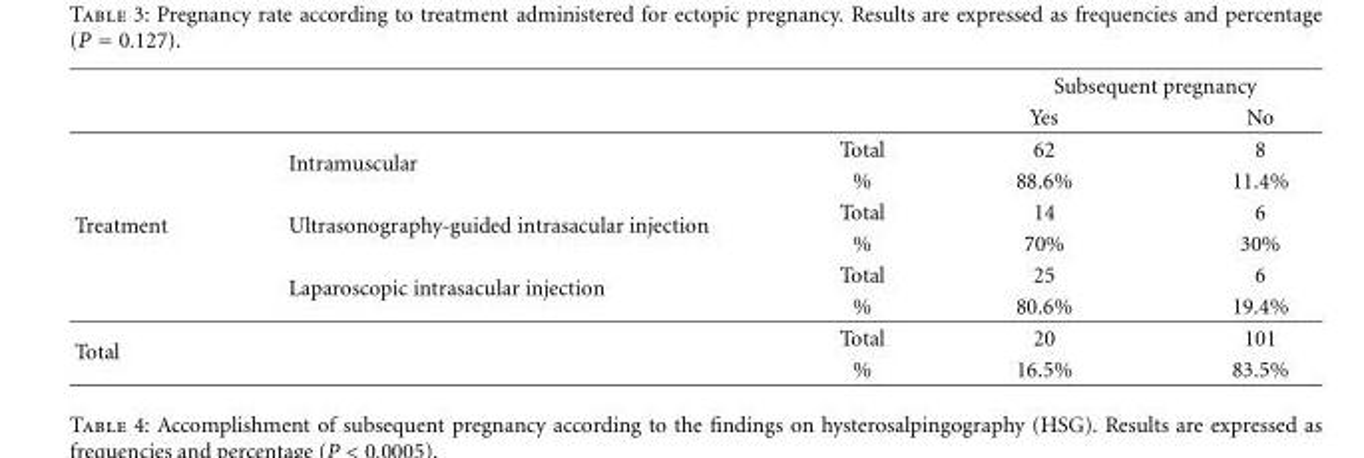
<table><thead><tr><td rowspan="2"></td><td rowspan="2"></td><td rowspan="2"></td><td colspan="2">Subsequent pregnancy</td></tr><tr><td>Yes</td><td>No</td></tr></thead><tbody><tr><td rowspan="6">Treatment</td><td rowspan="2">Intramuscular</td><td>Total</td><td>62</td><td>8</td></tr><tr><td>%</td><td>88.6%</td><td>11.4%</td></tr><tr><td rowspan="2">Ultrasonography-guided intrasacular injection</td><td>Total</td><td>14</td><td>6</td></tr><tr><td>%</td><td>70%</td><td>30%</td></tr><tr><td rowspan="2">Laparoscopic intrasacular injection</td><td>Total</td><td>25</td><td>6</td></tr><tr><td>%</td><td>80.6%</td><td>19.4%</td></tr><tr><td rowspan="2">Total</td><td rowspan="2"></td><td>Total</td><td>20</td><td>101</td></tr><tr><td>%</td><td>16.5%</td><td>83.5%</td></tr></tbody></table>